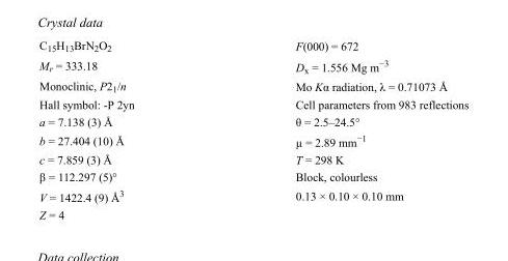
<table><tbody><tr><td>C<sub>15</sub>H<sub>13</sub>BrN<sub>2</sub>O<sub>2</sub></td><td>F(000) = 672</td></tr><tr><td>M<sub>r</sub> = 333.18</td><td>D<sub>x</sub> = 1.556 Mg m<sup>−3</sup></td></tr><tr><td>Monoclinic, P2<sub>1</sub>/n</td><td>Mo Kα radiation, λ = 0.71073 Å</td></tr><tr><td>Hall symbol: -P 2yn</td><td>Cell parameters from 983 reflections</td></tr><tr><td>a = 7.138 (3) Å</td><td>θ = 2.5–24.5°</td></tr><tr><td>b = 27.404 (10) Å</td><td>µ = 2.89 mm<sup>−1</sup></td></tr><tr><td>c = 7.859 (3) Å</td><td>T = 298 K</td></tr><tr><td>β = 112.297 (5)°</td><td>Block, colourless</td></tr><tr><td>V = 1422.4 (9) Å<sup>3</sup></td><td>0.13 × 0.10 × 0.10 mm</td></tr><tr><td>Z = 4</td><td></td></tr></tbody></table>